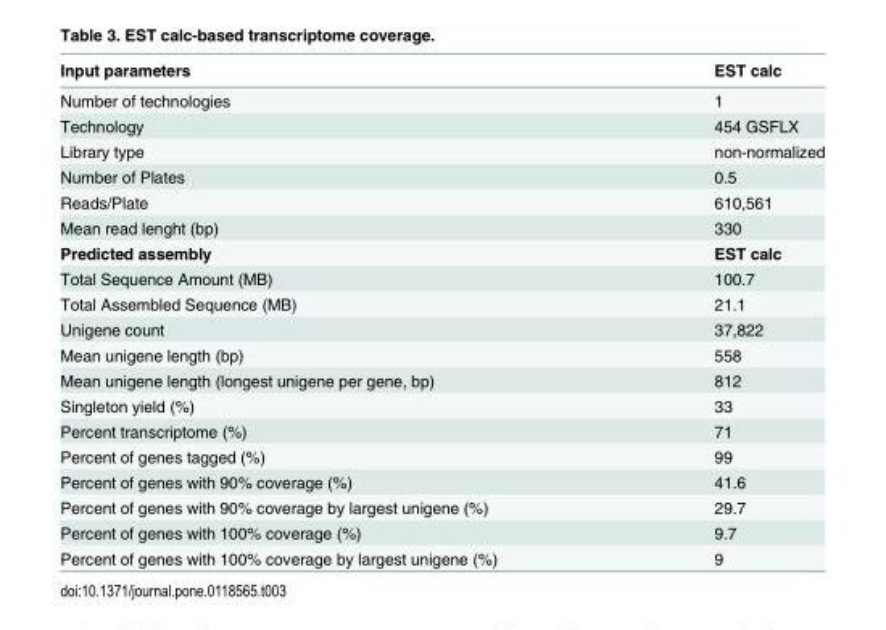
<table><thead><tr><td>Input parameters</td><td>EST calc</td></tr></thead><tbody><tr><td>Number of technologies</td><td>1</td></tr><tr><td>Technology</td><td>454 GSFLX</td></tr><tr><td>Library type</td><td>non-normalized</td></tr><tr><td>Number of Plates</td><td>0.5</td></tr><tr><td>Reads/Plate</td><td>610,561</td></tr><tr><td>Mean read lenght (bp)</td><td>330</td></tr><tr><td>Predicted assembly</td><td>EST calc</td></tr><tr><td>Total Sequence Amount (MB)</td><td>100.7</td></tr><tr><td>Total Assembled Sequence (MB)</td><td>21.1</td></tr><tr><td>Unigene count</td><td>37,822</td></tr><tr><td>Mean unigene length (bp)</td><td>558</td></tr><tr><td>Mean unigene length (longest unigene per gene, bp)</td><td>812</td></tr><tr><td>Singleton yield (%)</td><td>33</td></tr><tr><td>Percent transcriptome (%)</td><td>71</td></tr><tr><td>Percent of genes tagged (%)</td><td>99</td></tr><tr><td>Percent of genes with 90% coverage (%)</td><td>41.6</td></tr><tr><td>Percent of genes with 90% coverage by largest unigene (%)</td><td>29.7</td></tr><tr><td>Percent of genes with 100% coverage (%)</td><td>9.7</td></tr><tr><td>Percent of genes with 100% coverage by largest unigene (%)</td><td>9</td></tr></tbody></table>